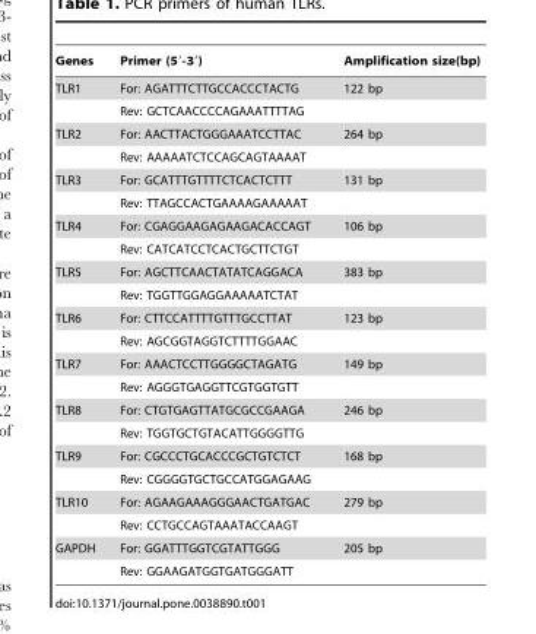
<table><thead><tr><td>Genes</td><td>Primer (5′-3′)</td><td>Amplification size(bp)</td></tr></thead><tbody><tr><td rowspan="2">TLR1</td><td>For: AGATTTCTTGCCACCCTACTG</td><td>122 bp</td></tr><tr><td>Rev: GCTCAACCCCAGAAATTTTAG</td><td></td></tr><tr><td rowspan="2">TLR2</td><td>For: AACTTACTGGGAAATCCTTAC</td><td>264 bp</td></tr><tr><td>Rev: AAAAATCTCCAGCAGTAAAAT</td><td></td></tr><tr><td rowspan="2">TLR3</td><td>For: GCATTTGTTTTCTCACTCTTT</td><td>131 bp</td></tr><tr><td>Rev: TTAGCCACTGAAAAGAAAAAT</td><td></td></tr><tr><td rowspan="2">TLR4</td><td>For: CGAGGAAGAGAAGACACCAGT</td><td>106 bp</td></tr><tr><td>Rev: CATCATCCTCACTGCTTCTGT</td><td></td></tr><tr><td rowspan="2">TLR5</td><td>For: AGCTTCAACTATATCAGGACA</td><td>383 bp</td></tr><tr><td>Rev: TGGTTGGAGGAAAAATCTAT</td><td></td></tr><tr><td rowspan="2">TLR6</td><td>For: CTTCCATTTTGTTTGCCTTAT</td><td>123 bp</td></tr><tr><td>Rev: AGCGGTAGGTCTTTTGGAAC</td><td></td></tr><tr><td rowspan="2">TLR7</td><td>For: AAACTCCTTGGGGCTAGATG</td><td>149 bp</td></tr><tr><td>Rev: AGGGTGAGGTTCGTGGTGTT</td><td></td></tr><tr><td rowspan="2">TLR8</td><td>For: CTGTGAGTTATGCGCCGAAGA</td><td>246 bp</td></tr><tr><td>Rev: TGGTGCTGTACATTGGGGTTG</td><td></td></tr><tr><td rowspan="2">TLR9</td><td>For: CGCCCTGCACCCGCTGTCTCT</td><td>168 bp</td></tr><tr><td>Rev: CGGGGTGCTGCCATGGAGAAG</td><td></td></tr><tr><td rowspan="2">TLR10</td><td>For: AGAAGAAAGGGAACTGATGAC</td><td>279 bp</td></tr><tr><td>Rev: CCTGCCAGTAAATACCAAGT</td><td></td></tr><tr><td rowspan="2">GAPDH</td><td>For: GGATTTGGTCGTATTGGG</td><td>205 bp</td></tr><tr><td>Rev: GGAAGATGGTGATGGGATT</td><td></td></tr></tbody></table>